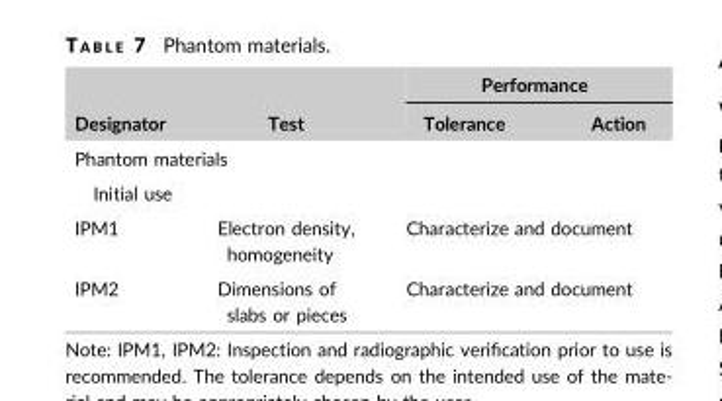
<table><thead><tr><td rowspan="2">Designator</td><td rowspan="2">Test</td><td colspan="2">Performance</td></tr><tr><td>Tolerance</td><td>Action</td></tr></thead><tbody><tr><td colspan="4">Phantom materials</td></tr><tr><td colspan="4">Initial use</td></tr><tr><td>IPM1</td><td>Electron density, homogeneity</td><td colspan="2">Characterize and document</td></tr><tr><td>IPM2</td><td>Dimensions of slabs or pieces</td><td colspan="2">Characterize and document</td></tr></tbody></table>